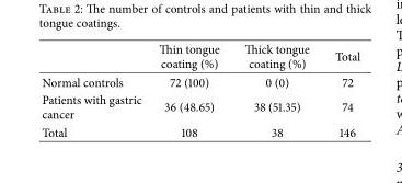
<table><thead><tr><td></td><td>Thin tongue coating (%)</td><td>Thick tongue coating (%)</td><td>Total</td></tr></thead><tbody><tr><td>Normal controls</td><td>72 (100)</td><td>0 (0)</td><td>72</td></tr><tr><td>Patients with gastric cancer</td><td>36 (48.65)</td><td>38 (51.35)</td><td>74</td></tr><tr><td>Total</td><td>108</td><td>38</td><td>146</td></tr></tbody></table>